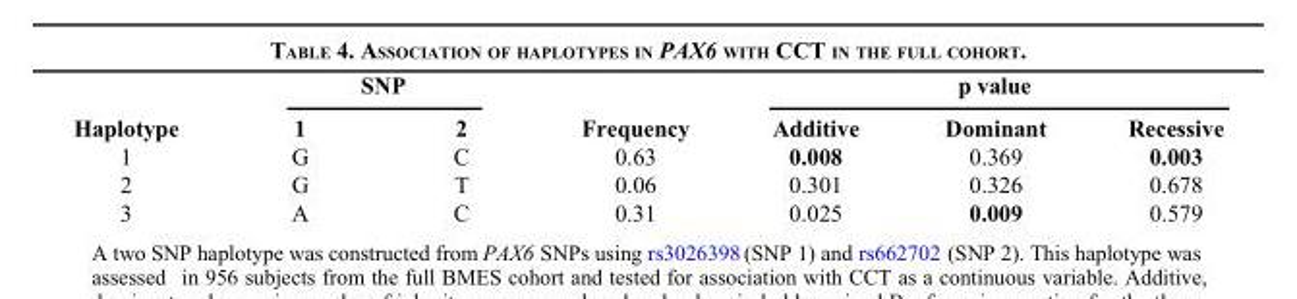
<table><thead><tr><td rowspan="2">Haplotype</td><td colspan="2">SNP</td><td rowspan="2">Frequency</td><td colspan="3">p value</td></tr><tr><td>1</td><td>2</td><td>Additive</td><td>Dominant</td><td>Recessive</td></tr></thead><tbody><tr><td>1</td><td>G</td><td>C</td><td>0.63</td><td>0.008</td><td>0.369</td><td>0.003</td></tr><tr><td>2</td><td>G</td><td>T</td><td>0.06</td><td>0.301</td><td>0.326</td><td>0.678</td></tr><tr><td>3</td><td>A</td><td>C</td><td>0.31</td><td>0.025</td><td>0.009</td><td>0.579</td></tr></tbody></table>